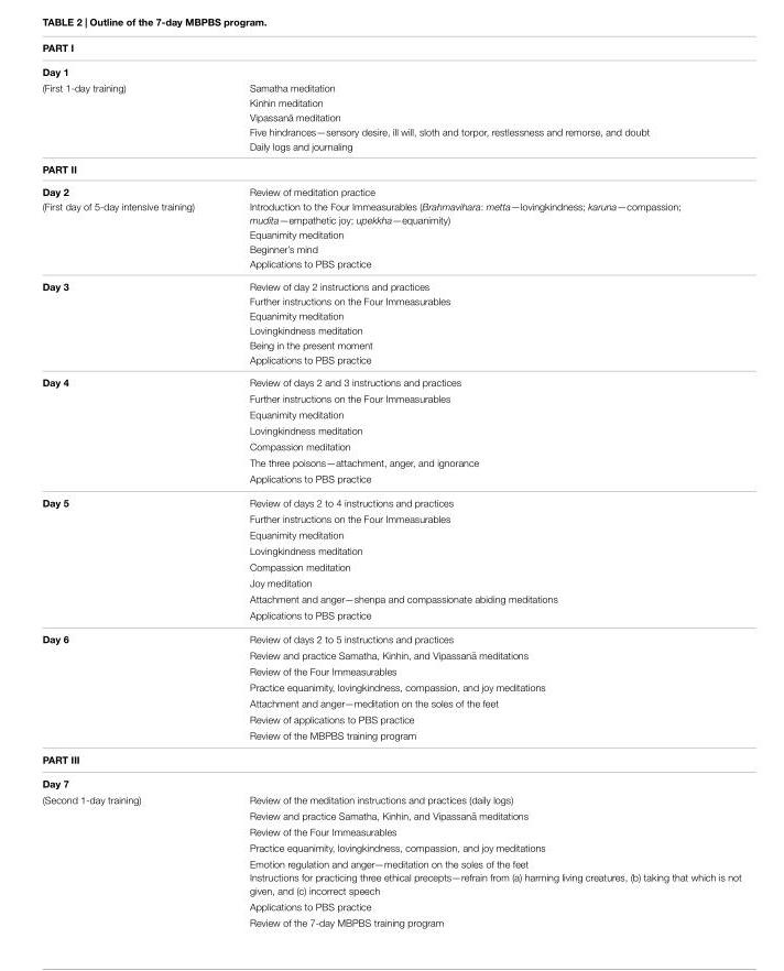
<table><thead><tr><td>PART I</td><td></td></tr></thead><tbody><tr><td colspan="2">Day 1</td></tr><tr><td rowspan="5">(First 1-day training)</td><td>Samatha meditation</td></tr><tr><td>Kinhin meditation</td></tr><tr><td>Vipassan ¯a meditation</td></tr><tr><td>Five hindrances—sensory desire, ill will, sloth and torpor, restlessness and remorse, and doubt</td></tr><tr><td>Daily logs and journaling</td></tr><tr><td colspan="2">PART II</td></tr><tr><td>Day 2</td><td>Review of meditation practice</td></tr><tr><td rowspan="4">(First day of 5-day intensive training)</td><td>Introduction to the Four Immeasurables (Brahmavihara: metta—lovingkindness; karuna—compassion; mudita—empathetic joy; upekkha—equanimity)</td></tr><tr><td>Equanimity meditation</td></tr><tr><td>Beginner’s mind</td></tr><tr><td>Applications to PBS practice</td></tr><tr><td rowspan="6">Day 3</td><td>Review of day 2 instructions and practices</td></tr><tr><td>Further instructions on the Four Immeasurables</td></tr><tr><td>Equanimity meditation</td></tr><tr><td>Lovingkindness meditation</td></tr><tr><td>Being in the present moment</td></tr><tr><td>Applications to PBS practice</td></tr><tr><td rowspan="7">Day 4</td><td>Review of days 2 and 3 instructions and practices</td></tr><tr><td>Further instructions on the Four Immeasurables</td></tr><tr><td>Equanimity meditation</td></tr><tr><td>Lovingkindness meditation</td></tr><tr><td>Compassion meditation</td></tr><tr><td>The three poisons—attachment, anger, and ignorance</td></tr><tr><td>Applications to PBS practice</td></tr><tr><td rowspan="8">Day 5</td><td>Review of days 2 to 4 instructions and practices</td></tr><tr><td>Further instructions on the Four Immeasurables</td></tr><tr><td>Equanimity meditation</td></tr><tr><td>Lovingkindness meditation</td></tr><tr><td>Compassion meditation</td></tr><tr><td>Joy meditation</td></tr><tr><td>Attachment and anger—shenpa and compassionate abiding meditations</td></tr><tr><td>Applications to PBS practice</td></tr><tr><td rowspan="7">Day 6</td><td>Review of days 2 to 5 instructions and practices</td></tr><tr><td>Review and practice Samatha, Kinhin, and Vipassan ¯a meditations</td></tr><tr><td>Review of the Four Immeasurables</td></tr><tr><td>Practice equanimity, lovingkindness, compassion, and joy meditations</td></tr><tr><td>Attachment and anger—meditation on the soles of the feet</td></tr><tr><td>Review of applications to PBS practice</td></tr><tr><td>Review of the MBPBS training program</td></tr><tr><td colspan="2">PART III</td></tr><tr><td colspan="2">Day 7</td></tr><tr><td rowspan="7">(Second 1-day training)</td><td>Review of the meditation instructions and practices (daily logs)</td></tr><tr><td>Review and practice Samatha, Kinhin, and Vipassan ¯a meditations</td></tr><tr><td>Review of the Four Immeasurables</td></tr><tr><td>Practice equanimity, lovingkindness, compassion, and joy meditations</td></tr><tr><td>Emotion regulation and anger—meditation on the soles of the feet Instructions for practicing three ethical precepts—refrain from (a) harming living creatures, (b) taking that which is not given, and (c) incorrect speech</td></tr><tr><td>Applications to PBS practice</td></tr><tr><td>Review of the 7-day MBPBS training program</td></tr></tbody></table>